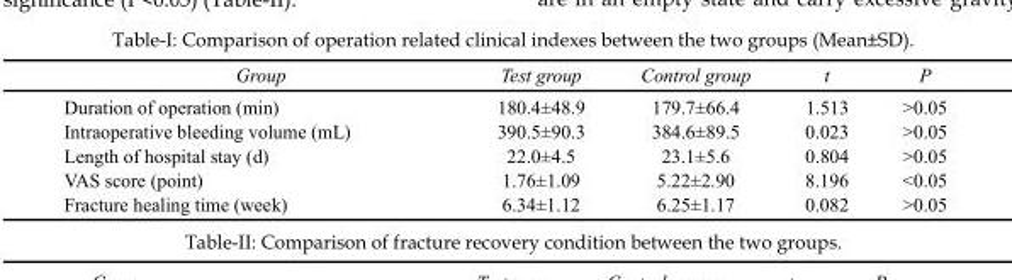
<table><thead><tr><td>Group</td><td>Test group</td><td>Control group</td><td>t</td><td>P</td></tr></thead><tbody><tr><td>Duration of operation (min)</td><td>180.4±48.9</td><td>179.7±66.4</td><td>1.513</td><td>&gt;0.05</td></tr><tr><td>Intraoperative bleeding volume (mL)</td><td>390.5±90.3</td><td>384.6±89.5</td><td>0.023</td><td>&gt;0.05</td></tr><tr><td>Length of hospital stay (d)</td><td>22.0±4.5</td><td>23.1±5.6</td><td>0.804</td><td>&gt;0.05</td></tr><tr><td>VAS score (point)</td><td>1.76±1.09</td><td>5.22±2.90</td><td>8.196</td><td>&lt;0.05</td></tr><tr><td>Fracture healing time (week)</td><td>6.34±1.12</td><td>6.25±1.17</td><td>0.082</td><td>&gt;0.05</td></tr></tbody></table>